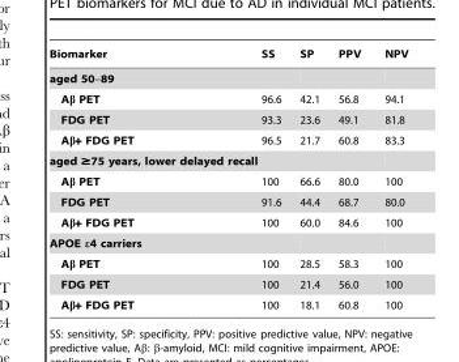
<table><thead><tr><td>Biomarker</td><td>SS</td><td>SP</td><td>PPV</td><td>NPV</td></tr></thead><tbody><tr><td colspan="5">aged 50–89</td></tr><tr><td>Aβ PET</td><td>96.6</td><td>42.1</td><td>56.8</td><td>94.1</td></tr><tr><td>FDG PET</td><td>93.3</td><td>23.6</td><td>49.1</td><td>81.8</td></tr><tr><td>Aβ+ FDG PET</td><td>96.5</td><td>21.7</td><td>60.8</td><td>83.3</td></tr><tr><td colspan="5">aged ≥75 years, lower delayed recall</td></tr><tr><td>Aβ PET</td><td>100</td><td>66.6</td><td>80.0</td><td>100</td></tr><tr><td>FDG PET</td><td>91.6</td><td>44.4</td><td>68.7</td><td>80.0</td></tr><tr><td>Aβ+ FDG PET</td><td>100</td><td>60.0</td><td>84.6</td><td>100</td></tr><tr><td colspan="5">APOE ε4 carriers</td></tr><tr><td>Aβ PET</td><td>100</td><td>28.5</td><td>58.3</td><td>100</td></tr><tr><td>FDG PET</td><td>100</td><td>21.4</td><td>56.0</td><td>100</td></tr><tr><td>Aβ+ FDG PET</td><td>100</td><td>18.1</td><td>60.8</td><td>100</td></tr></tbody></table>